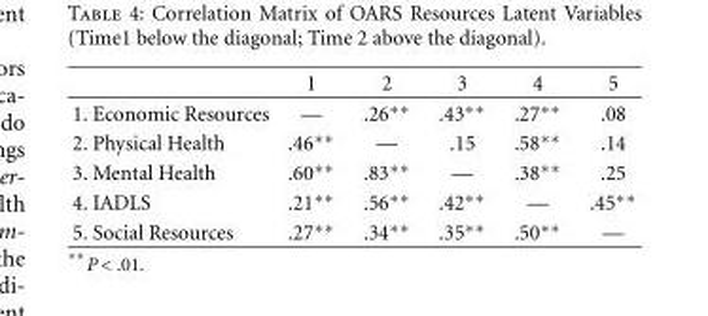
<table><thead><tr><td></td><td>1</td><td>2</td><td>3</td><td>4</td><td>5</td></tr></thead><tbody><tr><td>1. Economic Resources</td><td>—</td><td>.26∗∗</td><td>.43∗∗</td><td>.27∗∗</td><td>.08</td></tr><tr><td>2. Physical Health</td><td>.46∗∗</td><td>—</td><td>.15</td><td>.58∗∗</td><td>.14</td></tr><tr><td>3. Mental Health</td><td>.60∗∗</td><td>.83∗∗</td><td>—</td><td>.38∗∗</td><td>.25</td></tr><tr><td>4. IADLS</td><td>.21∗∗</td><td>.56∗∗</td><td>.42∗∗</td><td>—</td><td>.45∗∗</td></tr><tr><td>5. Social Resources</td><td>.27∗∗</td><td>.34∗∗</td><td>.35∗∗</td><td>.50∗∗</td><td>—</td></tr></tbody></table>